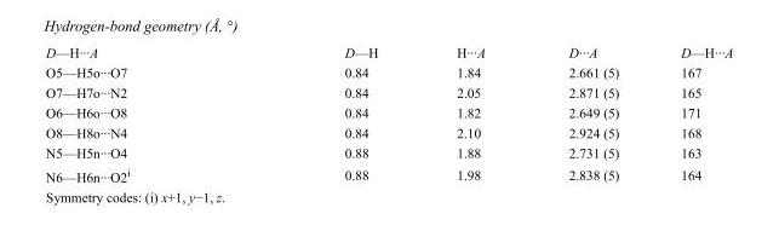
<table><tbody><tr><td>D—H···A</td><td>D—H</td><td>H···A</td><td>D···A</td><td>D—H···A</td></tr><tr><td>O5—H5o···O7</td><td>0.84</td><td>1.84</td><td>2.661 (5)</td><td>167</td></tr><tr><td>O7—H7o···N2</td><td>0.84</td><td>2.05</td><td>2.871 (5)</td><td>165</td></tr><tr><td>O6—H6o···O8</td><td>0.84</td><td>1.82</td><td>2.649 (5)</td><td>171</td></tr><tr><td>O8—H8o···N4</td><td>0.84</td><td>2.10</td><td>2.924 (5)</td><td>168</td></tr><tr><td>N5—H5n···O4</td><td>0.88</td><td>1.88</td><td>2.731 (5)</td><td>163</td></tr><tr><td>N6—H6n···O2<sup>i</sup></td><td>0.88</td><td>1.98</td><td>2.838 (5)</td><td>164</td></tr></tbody></table>